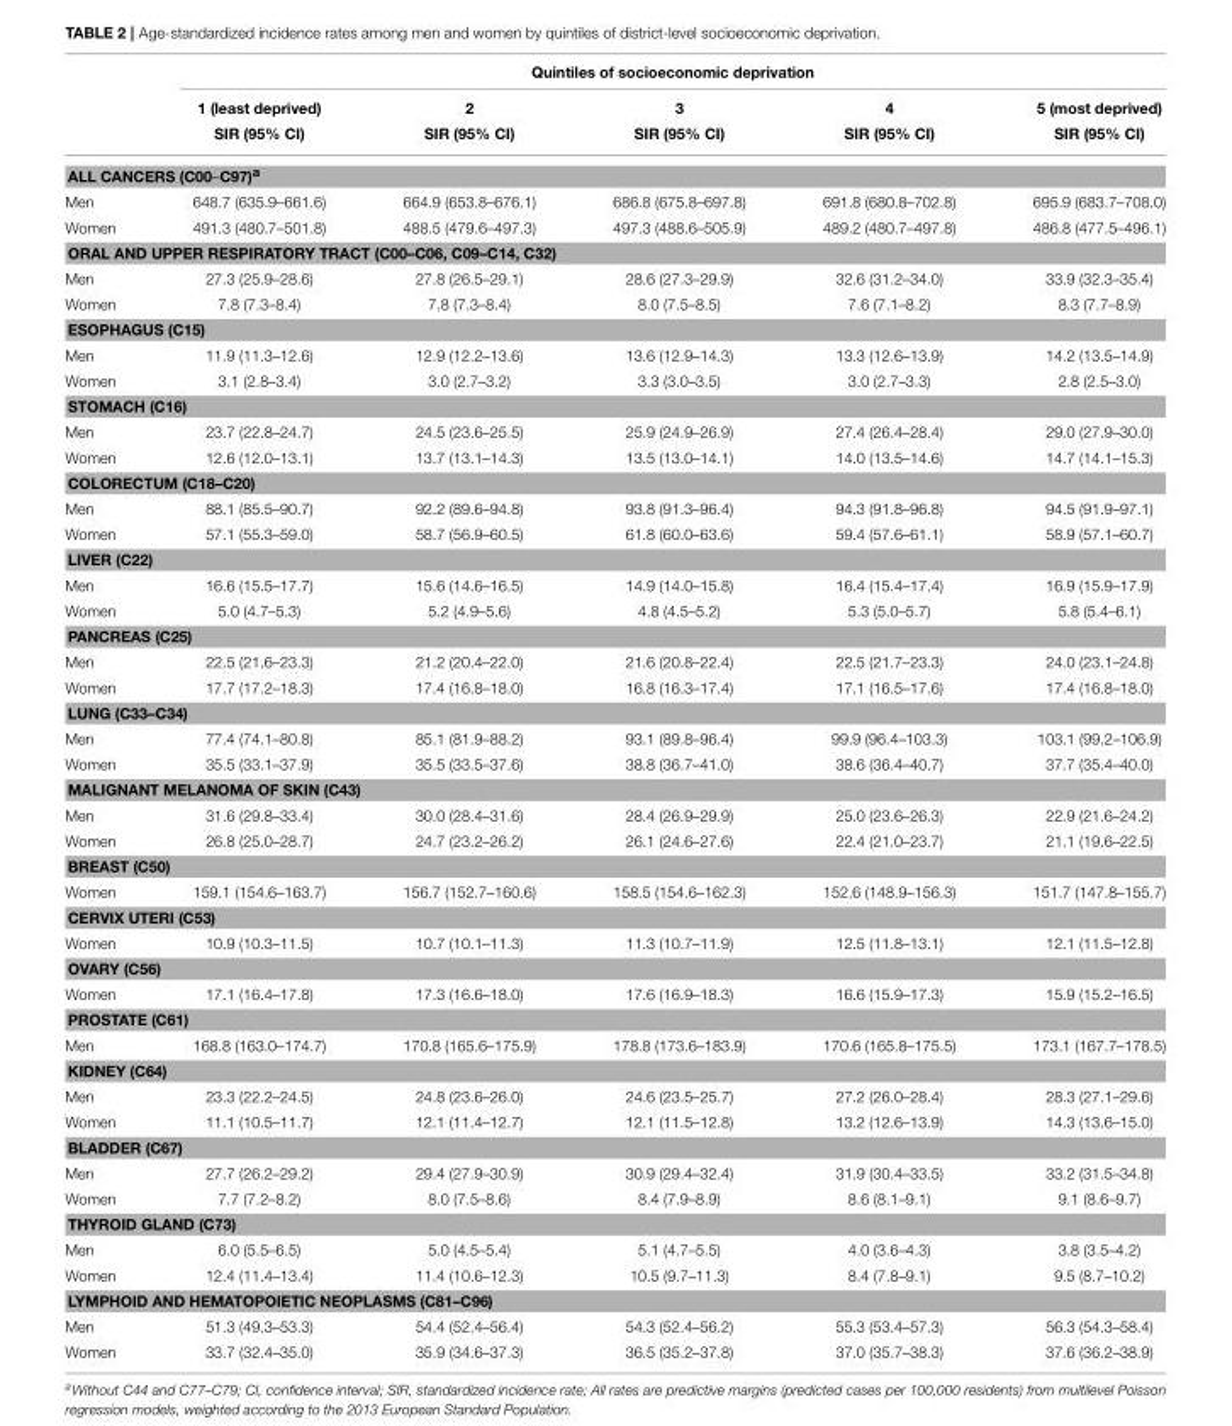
<table><thead><tr><td rowspan="3"></td><td colspan="5">Quintiles of socioeconomic deprivation</td></tr><tr><td rowspan="2">1 (least deprived) SIR (95% CI)</td><td rowspan="2">2 SIR (95% CI)</td><td rowspan="2">3 SIR (95% CI)</td><td rowspan="2">4 SIR (95% CI)</td><td rowspan="2">5 (most deprived) SIR (95% CI)</td></tr><tr></tr></thead><tbody><tr><td colspan="6">ALL CANCERS (C00–C97)<sup>a</sup></td></tr><tr><td>Men</td><td>648.7 (635.9–661.6)</td><td>664.9 (653.8–676.1)</td><td>686.8 (675.8–697.8)</td><td>691.8 (680.8–702.8)</td><td>695.9 (683.7–708.0)</td></tr><tr><td>Women</td><td>491.3 (480.7–501.8)</td><td>488.5 (479.6–497.3)</td><td>497.3 (488.6–505.9)</td><td>489.2 (480.7–497.8)</td><td>486.8 (477.5–496.1)</td></tr><tr><td colspan="6">ORAL AND UPPER RESPIRATORY TRACT (C00–C06, C09–C14, C32)</td></tr><tr><td>Men</td><td>27.3 (25.9–28.6)</td><td>27.8 (26.5–29.1)</td><td>28.6 (27.3–29.9)</td><td>32.6 (31.2–34.0)</td><td>33.9 (32.3–35.4)</td></tr><tr><td>Women</td><td>7.8 (7.3–8.4)</td><td>7.8 (7.3–8.4)</td><td>8.0 (7.5–8.5)</td><td>7.6 (7.1–8.2)</td><td>8.3 (7.7–8.9)</td></tr><tr><td colspan="6">ESOPHAGUS (C15)</td></tr><tr><td>Men</td><td>11.9 (11.3–12.6)</td><td>12.9 (12.2–13.6)</td><td>13.6 (12.9–14.3)</td><td>13.3 (12.6–13.9)</td><td>14.2 (13.5–14.9)</td></tr><tr><td>Women</td><td>3.1 (2.8–3.4)</td><td>3.0 (2.7–3.2)</td><td>3.3 (3.0–3.5)</td><td>3.0 (2.7–3.3)</td><td>2.8 (2.5–3.0)</td></tr><tr><td colspan="6">STOMACH (C16)</td></tr><tr><td>Men</td><td>23.7 (22.8–24.7)</td><td>24.5 (23.6–25.5)</td><td>25.9 (24.9–26.9)</td><td>27.4 (26.4–28.4)</td><td>29.0 (27.9–30.0)</td></tr><tr><td>Women</td><td>12.6 (12.0–13.1)</td><td>13.7 (13.1–14.3)</td><td>13.5 (13.0–14.1)</td><td>14.0 (13.5–14.6)</td><td>14.7 (14.1–15.3)</td></tr><tr><td colspan="6">COLORECTUM (C18–C20)</td></tr><tr><td>Men</td><td>88.1 (85.5–90.7)</td><td>92.2 (89.6–94.8)</td><td>93.8 (91.3–96.4)</td><td>94.3 (91.8–96.8)</td><td>94.5 (91.9–97.1)</td></tr><tr><td>Women</td><td>57.1 (55.3–59.0)</td><td>58.7 (56.9–60.5)</td><td>61.8 (60.0–63.6)</td><td>59.4 (57.6–61.1)</td><td>58.9 (57.1–60.7)</td></tr><tr><td colspan="6">LIVER (C22)</td></tr><tr><td>Men</td><td>16.6 (15.5–17.7)</td><td>15.6 (14.6–16.5)</td><td>14.9 (14.0–15.8)</td><td>16.4 (15.4–17.4)</td><td>16.9 (15.9–17.9)</td></tr><tr><td>Women</td><td>5.0 (4.7–5.3)</td><td>5.2 (4.9–5.6)</td><td>4.8 (4.5–5.2)</td><td>5.3 (5.0–5.7)</td><td>5.8 (5.4–6.1)</td></tr><tr><td colspan="6">PANCREAS (C25)</td></tr><tr><td>Men</td><td>22.5 (21.6–23.3)</td><td>21.2 (20.4–22.0)</td><td>21.6 (20.8–22.4)</td><td>22.5 (21.7–23.3)</td><td>24.0 (23.1–24.8)</td></tr><tr><td>Women</td><td>17.7 (17.2–18.3)</td><td>17.4 (16.8–18.0)</td><td>16.8 (16.3–17.4)</td><td>17.1 (16.5–17.6)</td><td>17.4 (16.8–18.0)</td></tr><tr><td colspan="6">LUNG (C33–C34)</td></tr><tr><td>Men</td><td>77.4 (74.1–80.8)</td><td>85.1 (81.9–88.2)</td><td>93.1 (89.8–96.4)</td><td>99.9 (96.4–103.3)</td><td>103.1 (99.2–106.9)</td></tr><tr><td>Women</td><td>35.5 (33.1–37.9)</td><td>35.5 (33.5–37.6)</td><td>38.8 (36.7–41.0)</td><td>38.6 (36.4–40.7)</td><td>37.7 (35.4–40.0)</td></tr><tr><td colspan="6">MALIGNANT MELANOMA OF SKIN (C43)</td></tr><tr><td>Men</td><td>31.6 (29.8–33.4)</td><td>30.0 (28.4–31.6)</td><td>28.4 (26.9–29.9)</td><td>25.0 (23.6–26.3)</td><td>22.9 (21.6–24.2)</td></tr><tr><td>Women</td><td>26.8 (25.0–28.7)</td><td>24.7 (23.2–26.2)</td><td>26.1 (24.6–27.6)</td><td>22.4 (21.0–23.7)</td><td>21.1 (19.6–22.5)</td></tr><tr><td colspan="6">BREAST (C50)</td></tr><tr><td>Women</td><td>159.1 (154.6–163.7)</td><td>156.7 (152.7–160.6)</td><td>158.5 (154.6–162.3)</td><td>152.6 (148.9–156.3)</td><td>151.7 (147.8–155.7)</td></tr><tr><td colspan="6">CERVIX UTERI (C53)</td></tr><tr><td>Women</td><td>10.9 (10.3–11.5)</td><td>10.7 (10.1–11.3)</td><td>11.3 (10.7–11.9)</td><td>12.5 (11.8–13.1)</td><td>12.1 (11.5–12.8)</td></tr><tr><td colspan="6">OVARY (C56)</td></tr><tr><td>Women</td><td>17.1 (16.4–17.8)</td><td>17.3 (16.6–18.0)</td><td>17.6 (16.9–18.3)</td><td>16.6 (15.9–17.3)</td><td>15.9 (15.2–16.5)</td></tr><tr><td colspan="6">PROSTATE (C61)</td></tr><tr><td>Men</td><td>168.8 (163.0–174.7)</td><td>170.8 (165.6–175.9)</td><td>178.8 (173.6–183.9)</td><td>170.6 (165.8–175.5)</td><td>173.1 (167.7–178.5)</td></tr><tr><td colspan="6">KIDNEY (C64)</td></tr><tr><td>Men</td><td>23.3 (22.2–24.5)</td><td>24.8 (23.6–26.0)</td><td>24.6 (23.5–25.7)</td><td>27.2 (26.0–28.4)</td><td>28.3 (27.1–29.6)</td></tr><tr><td>Women</td><td>11.1 (10.5–11.7)</td><td>12.1 (11.4–12.7)</td><td>12.1 (11.5–12.8)</td><td>13.2 (12.6–13.9)</td><td>14.3 (13.6–15.0)</td></tr><tr><td colspan="6">BLADDER (C67)</td></tr><tr><td>Men</td><td>27.7 (26.2–29.2)</td><td>29.4 (27.9–30.9)</td><td>30.9 (29.4–32.4)</td><td>31.9 (30.4–33.5)</td><td>33.2 (31.5–34.8)</td></tr><tr><td>Women</td><td>7.7 (7.2–8.2)</td><td>8.0 (7.5–8.6)</td><td>8.4 (7.9–8.9)</td><td>8.6 (8.1–9.1)</td><td>9.1 (8.6–9.7)</td></tr><tr><td colspan="6">THYROID GLAND (C73)</td></tr><tr><td>Men</td><td>6.0 (5.5–6.5)</td><td>5.0 (4.5–5.4)</td><td>5.1 (4.7–5.5)</td><td>4.0 (3.6–4.3)</td><td>3.8 (3.5–4.2)</td></tr><tr><td>Women</td><td>12.4 (11.4–13.4)</td><td>11.4 (10.6–12.3)</td><td>10.5 (9.7–11.3)</td><td>8.4 (7.8–9.1)</td><td>9.5 (8.7–10.2)</td></tr><tr><td colspan="6">LYMPHOID AND HEMATOPOIETIC NEOPLASMS (C81–C96)</td></tr><tr><td>Men</td><td>51.3 (49.3–53.3)</td><td>54.4 (52.4–56.4)</td><td>54.3 (52.4–56.2)</td><td>55.3 (53.4–57.3)</td><td>56.3 (54.3–58.4)</td></tr><tr><td>Women</td><td>33.7 (32.4–35.0)</td><td>35.9 (34.6–37.3)</td><td>36.5 (35.2–37.8)</td><td>37.0 (35.7–38.3)</td><td>37.6 (36.2–38.9)</td></tr></tbody></table>